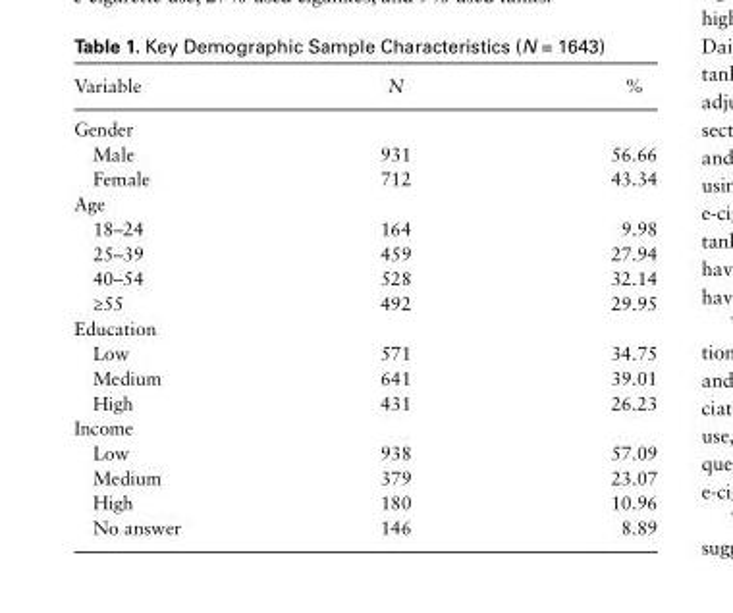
<table><thead><tr><td>Variable</td><td>N</td><td>%</td></tr></thead><tbody><tr><td colspan="3">Gender</td></tr><tr><td>Male</td><td>931</td><td>56.66</td></tr><tr><td>Female</td><td>712</td><td>43.34</td></tr><tr><td colspan="3">Age</td></tr><tr><td>18–24</td><td>164</td><td>9.98</td></tr><tr><td>25–39</td><td>459</td><td>27.94</td></tr><tr><td>40–54</td><td>528</td><td>32.14</td></tr><tr><td>≥55</td><td>492</td><td>29.95</td></tr><tr><td colspan="3">Education</td></tr><tr><td>Low</td><td>571</td><td>34.75</td></tr><tr><td>Medium</td><td>641</td><td>39.01</td></tr><tr><td>High</td><td>431</td><td>26.23</td></tr><tr><td colspan="3">Income</td></tr><tr><td>Low</td><td>938</td><td>57.09</td></tr><tr><td>Medium</td><td>379</td><td>23.07</td></tr><tr><td>High</td><td>180</td><td>10.96</td></tr><tr><td>No answer</td><td>146</td><td>8.89</td></tr></tbody></table>